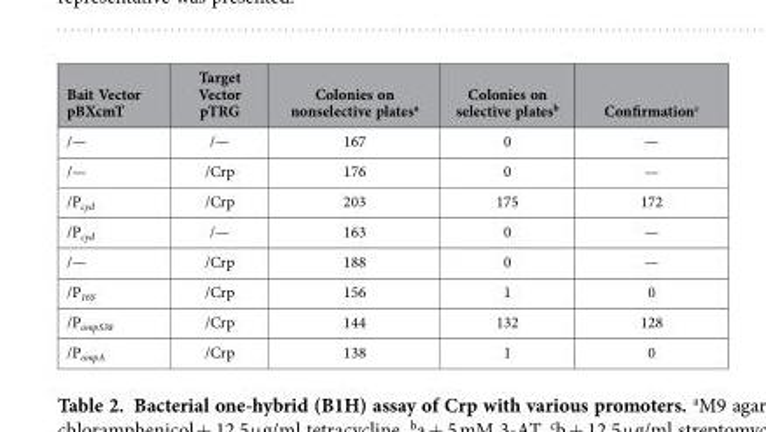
<table><thead><tr><td>Bait Vector pBXcmT</td><td>Target Vector pTRG</td><td>Colonies on nonselective plates<sup>a</sup></td><td>Colonies on selective plates<sup>b</sup></td><td>Confirmation<sup>c</sup></td></tr></thead><tbody><tr><td>/—</td><td>/—</td><td>167</td><td>0</td><td>—</td></tr><tr><td>/—</td><td>/Crp</td><td>176</td><td>0</td><td>—</td></tr><tr><td>/P<sub>cyd</sub></td><td>/Crp</td><td>203</td><td>175</td><td>172</td></tr><tr><td>/P<sub>cyd</sub></td><td>/—</td><td>163</td><td>0</td><td>—</td></tr><tr><td>/—</td><td>/Crp</td><td>188</td><td>0</td><td>—</td></tr><tr><td>/P<sub>16S</sub></td><td>/Crp</td><td>156</td><td>1</td><td>0</td></tr><tr><td>/P<sub>ompS38</sub></td><td>/Crp</td><td>144</td><td>132</td><td>128</td></tr><tr><td>/P<sub>ompA</sub></td><td>/Crp</td><td>138</td><td>1</td><td>0</td></tr></tbody></table>